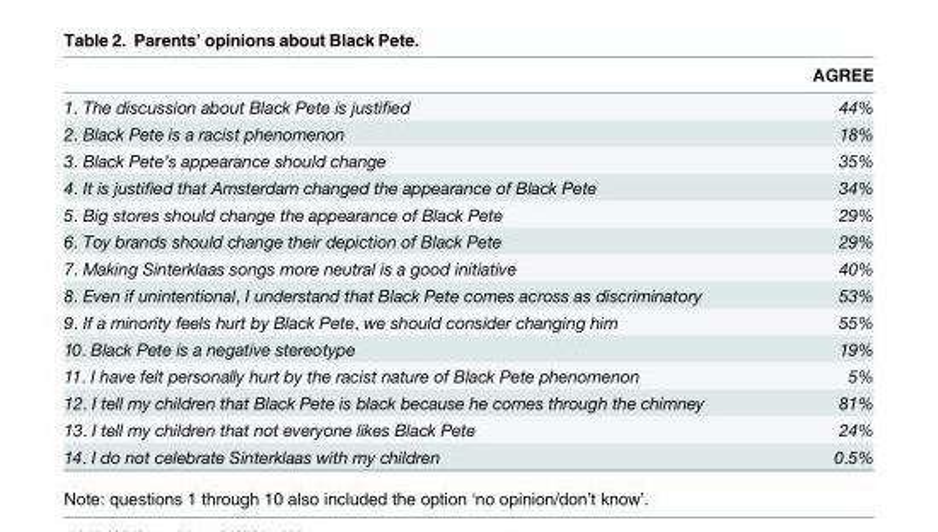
<table><thead><tr><td></td><td>AGREE</td></tr></thead><tbody><tr><td>1. The discussion about Black Pete is justified</td><td>44%</td></tr><tr><td>2. Black Pete is a racist phenomenon</td><td>18%</td></tr><tr><td>3. Black Pete’s appearance should change</td><td>35%</td></tr><tr><td>4. It is justified that Amsterdam changed the appearance of Black Pete</td><td>34%</td></tr><tr><td>5. Big stores should change the appearance of Black Pete</td><td>29%</td></tr><tr><td>6. Toy brands should change their depiction of Black Pete</td><td>29%</td></tr><tr><td>7. Making Sinterklaas songs more neutral is a good initiative</td><td>40%</td></tr><tr><td>8. Even if unintentional, I understand that Black Pete comes across as discriminatory</td><td>53%</td></tr><tr><td>9. If a minority feels hurt by Black Pete, we should consider changing him</td><td>55%</td></tr><tr><td>10. Black Pete is a negative stereotype</td><td>19%</td></tr><tr><td>11. I have felt personally hurt by the racist nature of Black Pete phenomenon</td><td>5%</td></tr><tr><td>12. I tell my children that Black Pete is black because he comes through the chimney</td><td>81%</td></tr><tr><td>13. I tell my children that not everyone likes Black Pete</td><td>24%</td></tr><tr><td>14. I do not celebrate Sinterklaas with my children</td><td>0.5%</td></tr></tbody></table>